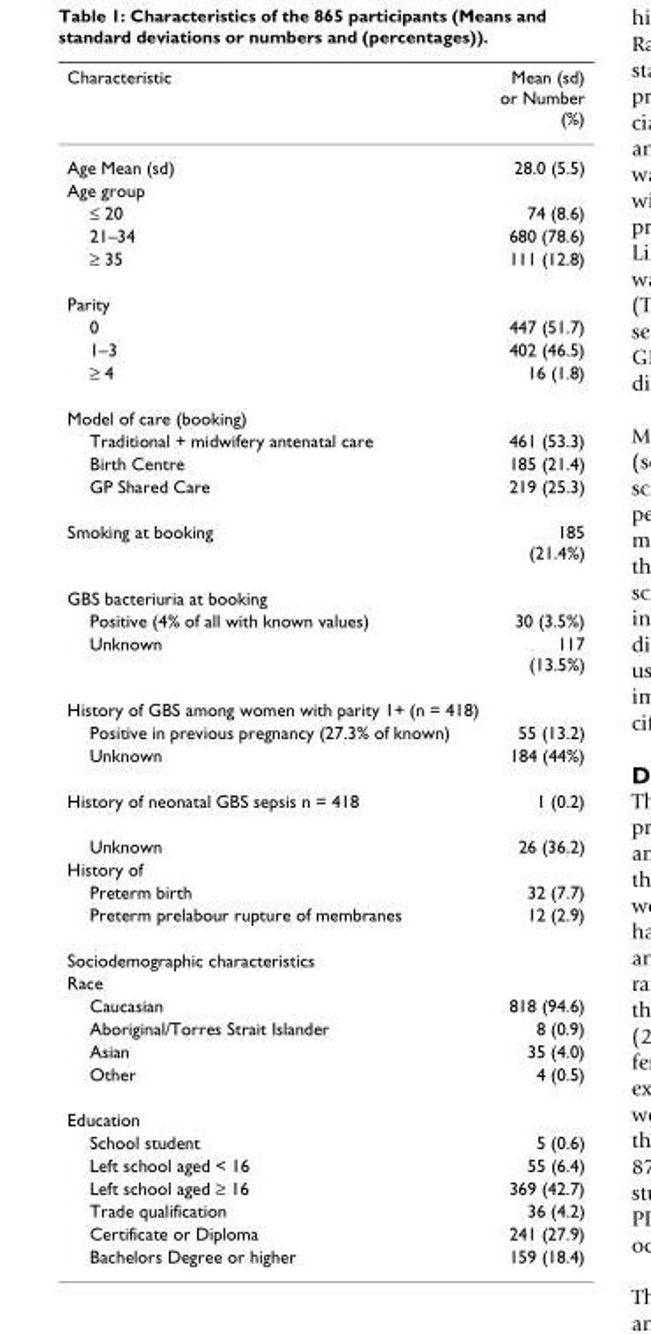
<table><thead><tr><td>Characteristic</td><td>Mean (sd) or Number (%)</td></tr></thead><tbody><tr><td>Age Mean (sd)</td><td>28.0 (5.5)</td></tr><tr><td colspan="2">Age group</td></tr><tr><td>≤ 20</td><td>74 (8.6)</td></tr><tr><td>21–34</td><td>680 (78.6)</td></tr><tr><td>≥ 35</td><td>111 (12.8)</td></tr><tr><td colspan="2">Parity</td></tr><tr><td>0</td><td>447 (51.7)</td></tr><tr><td>1–3</td><td>402 (46.5)</td></tr><tr><td>≥ 4</td><td>16 (1.8)</td></tr><tr><td colspan="2">Model of care (booking)</td></tr><tr><td>Traditional + midwifery antenatal care</td><td>461 (53.3)</td></tr><tr><td>Birth Centre</td><td>185 (21.4)</td></tr><tr><td>GP Shared Care</td><td>219 (25.3)</td></tr><tr><td>Smoking at booking</td><td>185 (21.4%)</td></tr><tr><td colspan="2">GBS bacteriuria at booking</td></tr><tr><td>Positive (4% of all with known values)</td><td>30 (3.5%)</td></tr><tr><td>Unknown</td><td>117 (13.5%)</td></tr><tr><td colspan="2">History of GBS among women with parity 1+ (n = 418)</td></tr><tr><td>Positive in previous pregnancy (27.3% of known)</td><td>55 (13.2)</td></tr><tr><td>Unknown</td><td>184 (44%)</td></tr><tr><td>History of neonatal GBS sepsis n = 418</td><td>1 (0.2)</td></tr><tr><td>Unknown</td><td>26 (36.2)</td></tr><tr><td colspan="2">History of</td></tr><tr><td>Preterm birth</td><td>32 (7.7)</td></tr><tr><td>Preterm prelabour rupture of membranes</td><td>12 (2.9)</td></tr><tr><td colspan="2">Sociodemographic characteristics</td></tr><tr><td colspan="2">Race</td></tr><tr><td>Caucasian</td><td>818 (94.6)</td></tr><tr><td>Aboriginal/Torres Strait Islander</td><td>8 (0.9)</td></tr><tr><td>Asian</td><td>35 (4.0)</td></tr><tr><td>Other</td><td>4 (0.5)</td></tr><tr><td colspan="2">Education</td></tr><tr><td>School student</td><td>5 (0.6)</td></tr><tr><td>Left school aged &lt; 16</td><td>55 (6.4)</td></tr><tr><td>Left school aged ≥ 16</td><td>369 (42.7)</td></tr><tr><td>Trade qualification</td><td>36 (4.2)</td></tr><tr><td>Certificate or Diploma</td><td>241 (27.9)</td></tr><tr><td>Bachelors Degree or higher</td><td>159 (18.4)</td></tr></tbody></table>